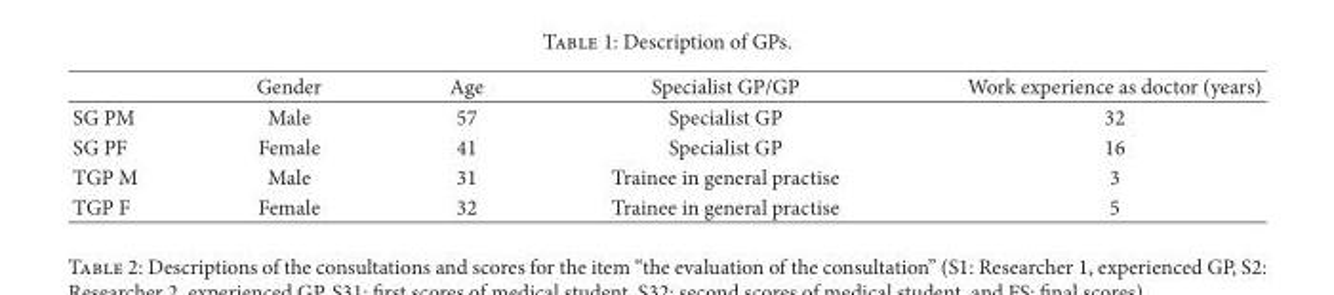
<table><thead><tr><td></td><td>Gender</td><td>Age</td><td>Specialist GP/GP</td><td>Work experience as doctor (years)</td></tr></thead><tbody><tr><td>SG PM</td><td>Male</td><td>57</td><td>Specialist GP</td><td>32</td></tr><tr><td>SG PF</td><td>Female</td><td>41</td><td>Specialist GP</td><td>16</td></tr><tr><td>TGP M</td><td>Male</td><td>31</td><td>Trainee in general practise</td><td>3</td></tr><tr><td>TGP F</td><td>Female</td><td>32</td><td>Trainee in general practise</td><td>5</td></tr></tbody></table>